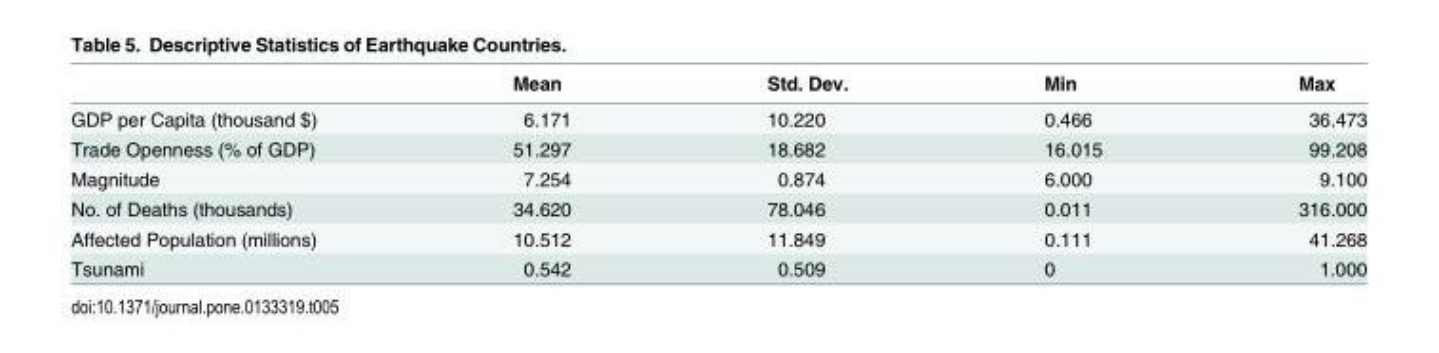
<table><thead><tr><td></td><td>Mean</td><td>Std. Dev.</td><td>Min</td><td>Max</td></tr></thead><tbody><tr><td>GDP per Capita (thousand $)</td><td>6.171</td><td>10.220</td><td>0.466</td><td>36.473</td></tr><tr><td>Trade Openness (% of GDP)</td><td>51.297</td><td>18.682</td><td>16.015</td><td>99.208</td></tr><tr><td>Magnitude</td><td>7.254</td><td>0.874</td><td>6.000</td><td>9.100</td></tr><tr><td>No. of Deaths (thousands)</td><td>34.620</td><td>78.046</td><td>0.011</td><td>316.000</td></tr><tr><td>Affected Population (millions)</td><td>10.512</td><td>11.849</td><td>0.111</td><td>41.268</td></tr><tr><td>Tsunami</td><td>0.542</td><td>0.509</td><td>0</td><td>1.000</td></tr></tbody></table>